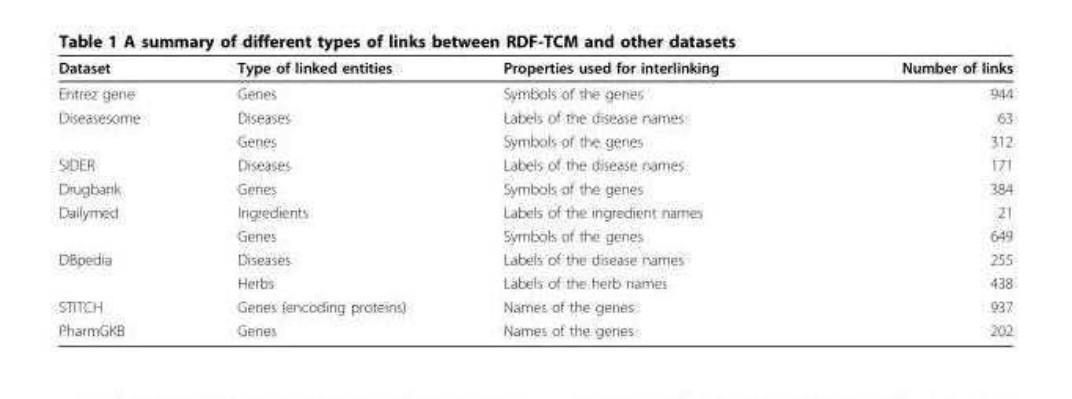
<table><thead><tr><td>Dataset</td><td>Type of linked entities</td><td>Properties used for interlinking</td><td>Number of links</td></tr></thead><tbody><tr><td>Entrez gene</td><td>Genes</td><td>Symbols of the genes</td><td>944</td></tr><tr><td rowspan="2">Diseasesome</td><td>Diseases</td><td>Labels of the disease names</td><td>63</td></tr><tr><td>Genes</td><td>Symbols of the genes</td><td>312</td></tr><tr><td>SIDER</td><td>Diseases</td><td>Labels of the disease names</td><td>171</td></tr><tr><td>Drugbank</td><td>Genes</td><td>Symbols of the genes</td><td>384</td></tr><tr><td rowspan="2">Dailymed</td><td>Ingredients</td><td>Labels of the ingredient names</td><td>21</td></tr><tr><td>Genes</td><td>Symbols of the genes</td><td>649</td></tr><tr><td rowspan="2">DBpedia</td><td>Diseases</td><td>Labels of the disease names</td><td>255</td></tr><tr><td>Herbs</td><td>Labels of the herb names</td><td>438</td></tr><tr><td>STITCH</td><td>Genes (encoding proteins)</td><td>Names of the genes</td><td>937</td></tr><tr><td>PharmGKB</td><td>Genes</td><td>Names of the genes</td><td>202</td></tr></tbody></table>